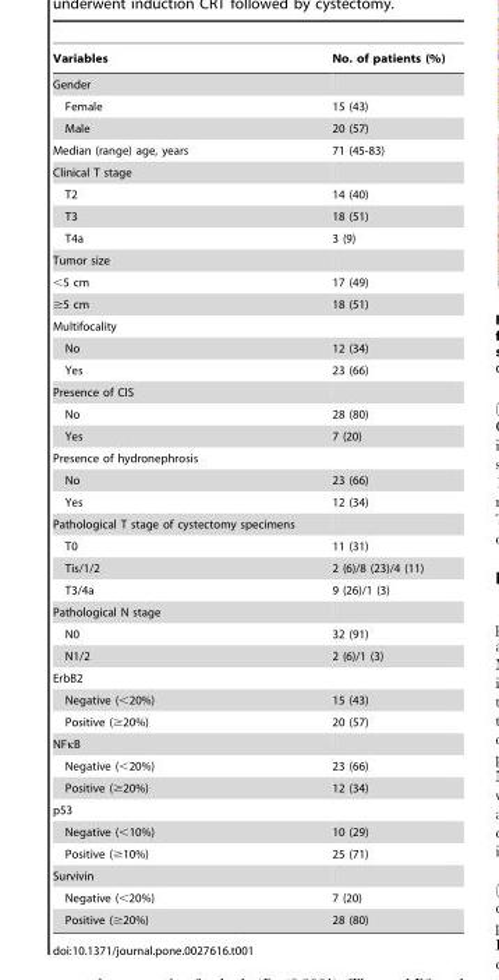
<table><thead><tr><td>Variables</td><td>No. of patients (%)</td></tr></thead><tbody><tr><td colspan="2">Gender</td></tr><tr><td>Female</td><td>15 (43)</td></tr><tr><td>Male</td><td>20 (57)</td></tr><tr><td>Median (range) age, years</td><td>71 (45-83)</td></tr><tr><td colspan="2">Clinical T stage</td></tr><tr><td>T2</td><td>14 (40)</td></tr><tr><td>T3</td><td>18 (51)</td></tr><tr><td>T4a</td><td>3 (9)</td></tr><tr><td colspan="2">Tumor size</td></tr><tr><td>&lt;5 cm</td><td>17 (49)</td></tr><tr><td>≥5 cm</td><td>18 (51)</td></tr><tr><td colspan="2">Multifocality</td></tr><tr><td>No</td><td>12 (34)</td></tr><tr><td>Yes</td><td>23 (66)</td></tr><tr><td colspan="2">Presence of CIS</td></tr><tr><td>No</td><td>28 (80)</td></tr><tr><td>Yes</td><td>7 (20)</td></tr><tr><td colspan="2">Presence of hydronephrosis</td></tr><tr><td>No</td><td>23 (66)</td></tr><tr><td>Yes</td><td>12 (34)</td></tr><tr><td colspan="2">Pathological T stage of cystectomy specimens</td></tr><tr><td>T0</td><td>11 (31)</td></tr><tr><td>Tis/1/2</td><td>2 (6)/8 (23)/4 (11)</td></tr><tr><td>T3/4a</td><td>9 (26)/1 (3)</td></tr><tr><td colspan="2">Pathological N stage</td></tr><tr><td>N0</td><td>32 (91)</td></tr><tr><td>N1/2</td><td>2 (6)/1 (3)</td></tr><tr><td colspan="2">ErbB2</td></tr><tr><td>Negative (&lt;20%)</td><td>15 (43)</td></tr><tr><td>Positive (≥20%)</td><td>20 (57)</td></tr><tr><td colspan="2">NFκB</td></tr><tr><td>Negative (&lt;20%)</td><td>23 (66)</td></tr><tr><td>Positive (≥20%)</td><td>12 (34)</td></tr><tr><td colspan="2">p53</td></tr><tr><td>Negative (&lt;10%)</td><td>10 (29)</td></tr><tr><td>Positive (≥10%)</td><td>25 (71)</td></tr><tr><td colspan="2">Survivin</td></tr><tr><td>Negative (&lt;20%)</td><td>7 (20)</td></tr><tr><td>Positive (≥20%)</td><td>28 (80)</td></tr></tbody></table>